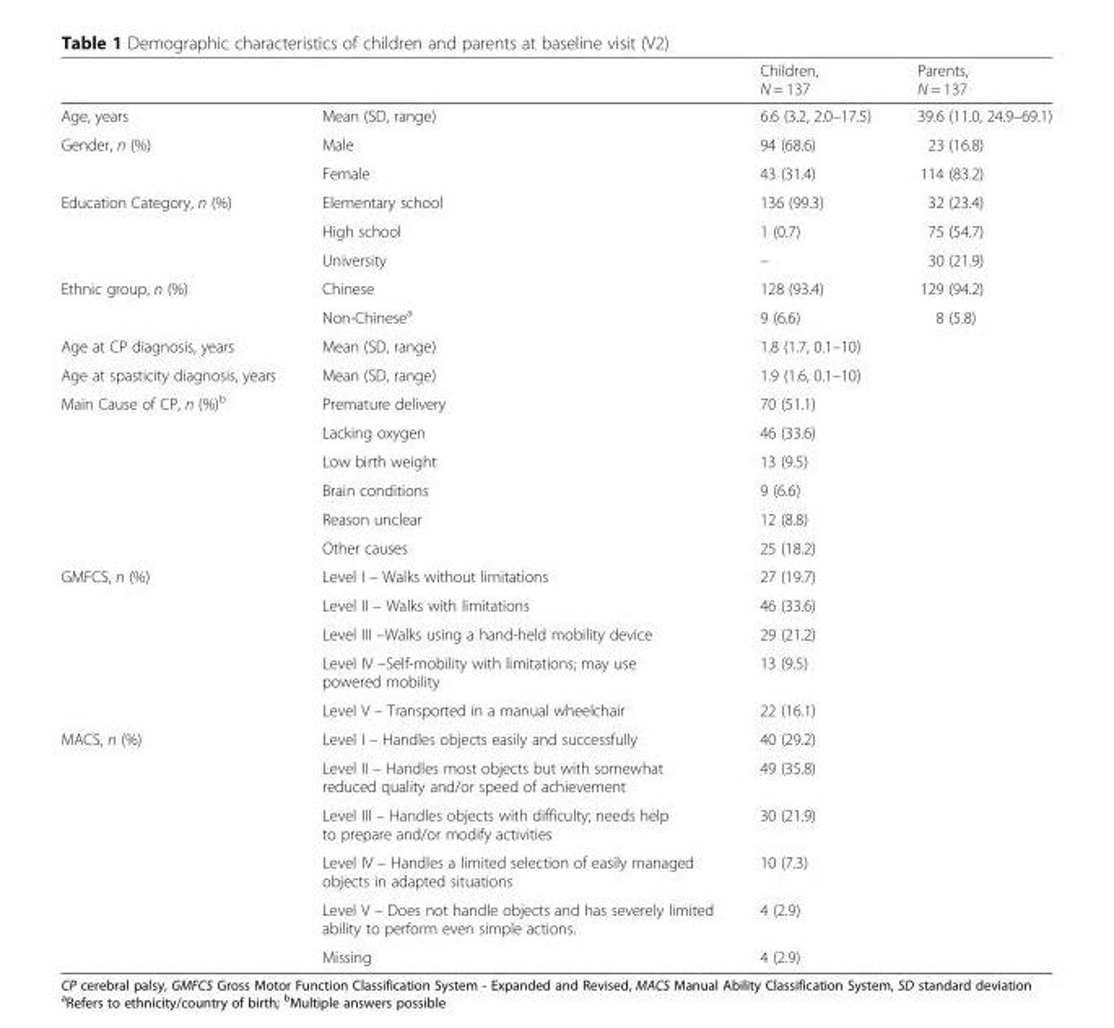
<table><thead><tr><td></td><td></td><td>Children, N = 137</td><td>Parents, N = 137</td></tr></thead><tbody><tr><td>Age, years</td><td>Mean (SD, range)</td><td>6.6 (3.2, 2.0–17.5)</td><td>39.6 (11.0, 24.9–69.1)</td></tr><tr><td rowspan="2">Gender, n (%)</td><td>Male</td><td>94 (68.6)</td><td>23 (16.8)</td></tr><tr><td>Female</td><td>43 (31.4)</td><td>114 (83.2)</td></tr><tr><td rowspan="3">Education Category, n (%)</td><td>Elementary school</td><td>136 (99.3)</td><td>32 (23.4)</td></tr><tr><td>High school</td><td>1 (0.7)</td><td>75 (54.7)</td></tr><tr><td>University</td><td>–</td><td>30 (21.9)</td></tr><tr><td rowspan="2">Ethnic group, n (%)</td><td>Chinese</td><td>128 (93.4)</td><td>129 (94.2)</td></tr><tr><td>Non-Chinese<sup>a</sup></td><td>9 (6.6)</td><td>8 (5.8)</td></tr><tr><td>Age at CP diagnosis, years</td><td>Mean (SD, range)</td><td>1.8 (1.7, 0.1–10)</td><td></td></tr><tr><td>Age at spasticity diagnosis, years</td><td>Mean (SD, range)</td><td>1.9 (1.6, 0.1–10)</td><td></td></tr><tr><td rowspan="6">Main Cause of CP, n (%)<sup>b</sup></td><td>Premature delivery</td><td>70 (51.1)</td><td></td></tr><tr><td>Lacking oxygen</td><td>46 (33.6)</td><td></td></tr><tr><td>Low birth weight</td><td>13 (9.5)</td><td></td></tr><tr><td>Brain conditions</td><td>9 (6.6)</td><td></td></tr><tr><td>Reason unclear</td><td>12 (8.8)</td><td></td></tr><tr><td>Other causes</td><td>25 (18.2)</td><td></td></tr><tr><td rowspan="5">GMFCS, n (%)</td><td>Level I – Walks without limitations</td><td>27 (19.7)</td><td></td></tr><tr><td>Level II – Walks with limitations</td><td>46 (33.6)</td><td></td></tr><tr><td>Level III –Walks using a hand-held mobility device</td><td>29 (21.2)</td><td></td></tr><tr><td>Level IV –Self-mobility with limitations; may use powered mobility</td><td>13 (9.5)</td><td></td></tr><tr><td>Level V – Transported in a manual wheelchair</td><td>22 (16.1)</td><td></td></tr><tr><td rowspan="6">MACS, n (%)</td><td>Level I – Handles objects easily and successfully</td><td>40 (29.2)</td><td></td></tr><tr><td>Level II – Handles most objects but with somewhat reduced quality and/or speed of achievement</td><td>49 (35.8)</td><td></td></tr><tr><td>Level III – Handles objects with difficulty; needs help to prepare and/or modify activities</td><td>30 (21.9)</td><td></td></tr><tr><td>Level IV – Handles a limited selection of easily managed objects in adapted situations</td><td>10 (7.3)</td><td></td></tr><tr><td>Level V – Does not handle objects and has severely limited ability to perform even simple actions.</td><td>4 (2.9)</td><td></td></tr><tr><td>Missing</td><td>4 (2.9)</td><td></td></tr></tbody></table>